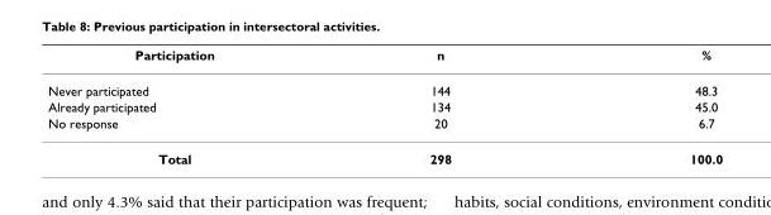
<table><thead><tr><td>Participation</td><td>n</td><td>%</td></tr></thead><tbody><tr><td>Never participated</td><td>144</td><td>48.3</td></tr><tr><td>Already participated</td><td>134</td><td>45.0</td></tr><tr><td>No response</td><td>20</td><td>6.7</td></tr><tr><td>Total</td><td>298</td><td>100.0</td></tr></tbody></table>